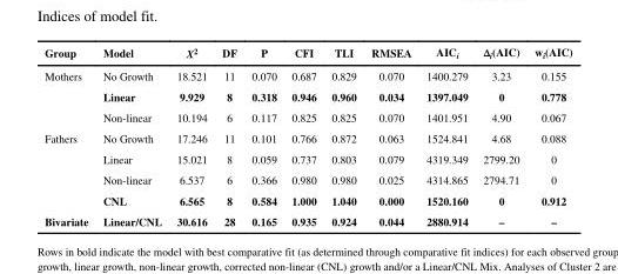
<table><thead><tr><td>Group</td><td>Model</td><td>X<sup>2</sup></td><td>DF</td><td>P</td><td>CFI</td><td>TLI</td><td>RMSEA</td><td>AIC<sub>i</sub></td><td>Δ<sub>i</sub>(AIC)</td><td>w<sub>i</sub>(AIC)</td></tr></thead><tbody><tr><td rowspan="3">Mothers</td><td>No Growth</td><td>18.521</td><td>11</td><td>0.070</td><td>0.687</td><td>0.829</td><td>0.070</td><td>1400.279</td><td>3.23</td><td>0.155</td></tr><tr><td>Linear</td><td>9.929</td><td>8</td><td>0.318</td><td>0.946</td><td>0.960</td><td>0.034</td><td>1397.049</td><td>0</td><td>0.778</td></tr><tr><td>Non-linear</td><td>10.194</td><td>6</td><td>0.117</td><td>0.825</td><td>0.825</td><td>0.070</td><td>1401.951</td><td>4.90</td><td>0.067</td></tr><tr><td rowspan="4">Fathers</td><td>No Growth</td><td>17.246</td><td>11</td><td>0.101</td><td>0.766</td><td>0.872</td><td>0.063</td><td>1524.841</td><td>4.68</td><td>0.088</td></tr><tr><td>Linear</td><td>15.021</td><td>8</td><td>0.059</td><td>0.737</td><td>0.803</td><td>0.079</td><td>4319.349</td><td>2799.20</td><td>0</td></tr><tr><td>Non-linear</td><td>6.537</td><td>6</td><td>0.366</td><td>0.980</td><td>0.980</td><td>0.025</td><td>4314.865</td><td>2794.71</td><td>0</td></tr><tr><td>CNL</td><td>6.565</td><td>8</td><td>0.584</td><td>1.000</td><td>1.040</td><td>0.000</td><td>1520.160</td><td>0</td><td>0.912</td></tr><tr><td>Bivariate</td><td>Linear/CNL</td><td>30.616</td><td>28</td><td>0.165</td><td>0.935</td><td>0.924</td><td>0.044</td><td>2880.914</td><td>–</td><td>–</td></tr></tbody></table>